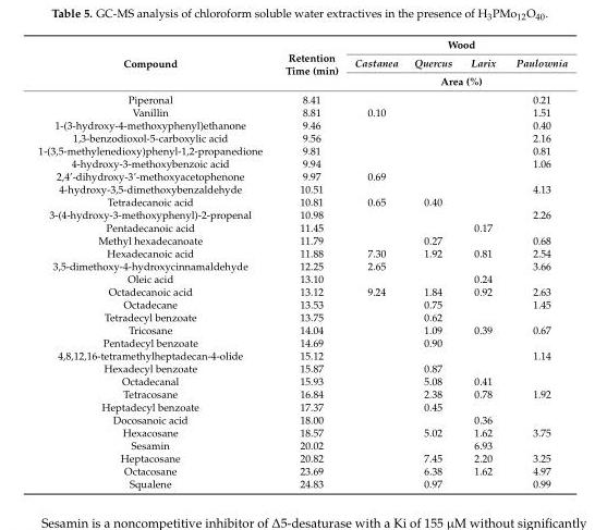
<table><thead><tr><td rowspan="3">Compound</td><td rowspan="3">Retention Time (min)</td><td colspan="4">Wood</td></tr><tr><td>Castanea</td><td>Quercus</td><td>Larix</td><td>Paulownia</td></tr><tr><td colspan="4">Area (%)</td></tr></thead><tbody><tr><td>Piperonal</td><td>8.41</td><td></td><td></td><td></td><td>0.21</td></tr><tr><td>Vanillin</td><td>8.81</td><td>0.10</td><td></td><td></td><td>1.51</td></tr><tr><td>1-(3-hydroxy-4-methoxyphenyl)ethanone</td><td>9.46</td><td></td><td></td><td></td><td>0.40</td></tr><tr><td>1,3-benzodioxol-5-carboxylic acid</td><td>9.56</td><td></td><td></td><td></td><td>2.16</td></tr><tr><td>1-(3,5-methylenedioxy)phenyl-1,2-propanedione</td><td>9.81</td><td></td><td></td><td></td><td>0.81</td></tr><tr><td>4-hydroxy-3-methoxybenzoic acid</td><td>9.94</td><td></td><td></td><td></td><td>1.06</td></tr><tr><td>2,4’-dihydroxy-3’-methoxyacetophenone</td><td>9.97</td><td>0.69</td><td></td><td></td><td></td></tr><tr><td>4-hydroxy-3,5-dimethoxybenzaldehyde</td><td>10.51</td><td></td><td></td><td></td><td>4.13</td></tr><tr><td>Tetradecanoic acid</td><td>10.81</td><td>0.65</td><td>0.40</td><td></td><td></td></tr><tr><td>3-(4-hydroxy-3-methoxyphenyl)-2-propenal</td><td>10.98</td><td></td><td></td><td></td><td>2.26</td></tr><tr><td>Pentadecanoic acid</td><td>11.45</td><td></td><td></td><td>0.17</td><td></td></tr><tr><td>Methyl hexadecanoate</td><td>11.79</td><td></td><td>0.27</td><td></td><td>0.68</td></tr><tr><td>Hexadecanoic acid</td><td>11.88</td><td>7.30</td><td>1.92</td><td>0.81</td><td>2.54</td></tr><tr><td>3,5-dimethoxy-4-hydroxycinnamaldehyde</td><td>12.25</td><td>2.65</td><td></td><td></td><td>3.66</td></tr><tr><td>Oleic acid</td><td>13.10</td><td></td><td></td><td>0.24</td><td></td></tr><tr><td>Octadecanoic acid</td><td>13.12</td><td>9.24</td><td>1.84</td><td>0.92</td><td>2.63</td></tr><tr><td>Octadecane</td><td>13.53</td><td></td><td>0.75</td><td></td><td>1.45</td></tr><tr><td>Tetradecyl benzoate</td><td>13.75</td><td></td><td>0.62</td><td></td><td></td></tr><tr><td>Tricosane</td><td>14.04</td><td></td><td>1.09</td><td>0.39</td><td>0.67</td></tr><tr><td>Pentadecyl benzoate</td><td>14.69</td><td></td><td>0.90</td><td></td><td></td></tr><tr><td>4,8,12,16-tetramethylheptadecan-4-olide</td><td>15.12</td><td></td><td></td><td></td><td>1.14</td></tr><tr><td>Hexadecyl benzoate</td><td>15.87</td><td></td><td>0.87</td><td></td><td></td></tr><tr><td>Octadecanal</td><td>15.93</td><td></td><td>5.08</td><td>0.41</td><td></td></tr><tr><td>Tetracosane</td><td>16.84</td><td></td><td>2.38</td><td>0.78</td><td>1.92</td></tr><tr><td>Heptadecyl benzoate</td><td>17.37</td><td></td><td>0.45</td><td></td><td></td></tr><tr><td>Docosanoic acid</td><td>18.00</td><td></td><td></td><td>0.36</td><td></td></tr><tr><td>Hexacosane</td><td>18.57</td><td></td><td>5.02</td><td>1.62</td><td>3.75</td></tr><tr><td>Sesamin</td><td>20.02</td><td></td><td></td><td>6.93</td><td></td></tr><tr><td>Heptacosane</td><td>20.82</td><td></td><td>7.45</td><td>2.20</td><td>3.25</td></tr><tr><td>Octacosane</td><td>23.69</td><td></td><td>6.38</td><td>1.62</td><td>4.97</td></tr><tr><td>Squalene</td><td>24.83</td><td></td><td>0.97</td><td></td><td>0.99</td></tr></tbody></table>